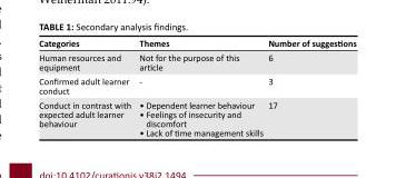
<table><thead><tr><td>Categories</td><td>Themes</td><td>Number of suggestions</td></tr></thead><tbody><tr><td>Human resources and equipment</td><td>Not for the purpose of this article</td><td>6</td></tr><tr><td>Confirmed adult learner conduct</td><td>-</td><td>3</td></tr><tr><td>Conduct in contrast with expected adult learner behaviour</td><td>• Dependent learner behaviour • Feelings of insecurity and discomfort • Lack of time management skills</td><td>17</td></tr></tbody></table>